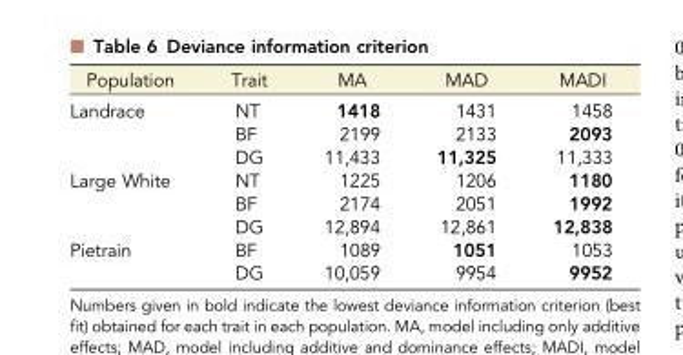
<table><thead><tr><td>Population</td><td>Trait</td><td>MA</td><td>MAD</td><td>MADI</td></tr></thead><tbody><tr><td rowspan="3">Landrace</td><td>NT</td><td>1418</td><td>1431</td><td>1458</td></tr><tr><td>BF</td><td>2199</td><td>2133</td><td>2093</td></tr><tr><td>DG</td><td>11,433</td><td>11,325</td><td>11,333</td></tr><tr><td rowspan="3">Large White</td><td>NT</td><td>1225</td><td>1206</td><td>1180</td></tr><tr><td>BF</td><td>2174</td><td>2051</td><td>1992</td></tr><tr><td>DG</td><td>12,894</td><td>12,861</td><td>12,838</td></tr><tr><td rowspan="2">Pietrain</td><td>BF</td><td>1089</td><td>1051</td><td>1053</td></tr><tr><td>DG</td><td>10,059</td><td>9954</td><td>9952</td></tr></tbody></table>